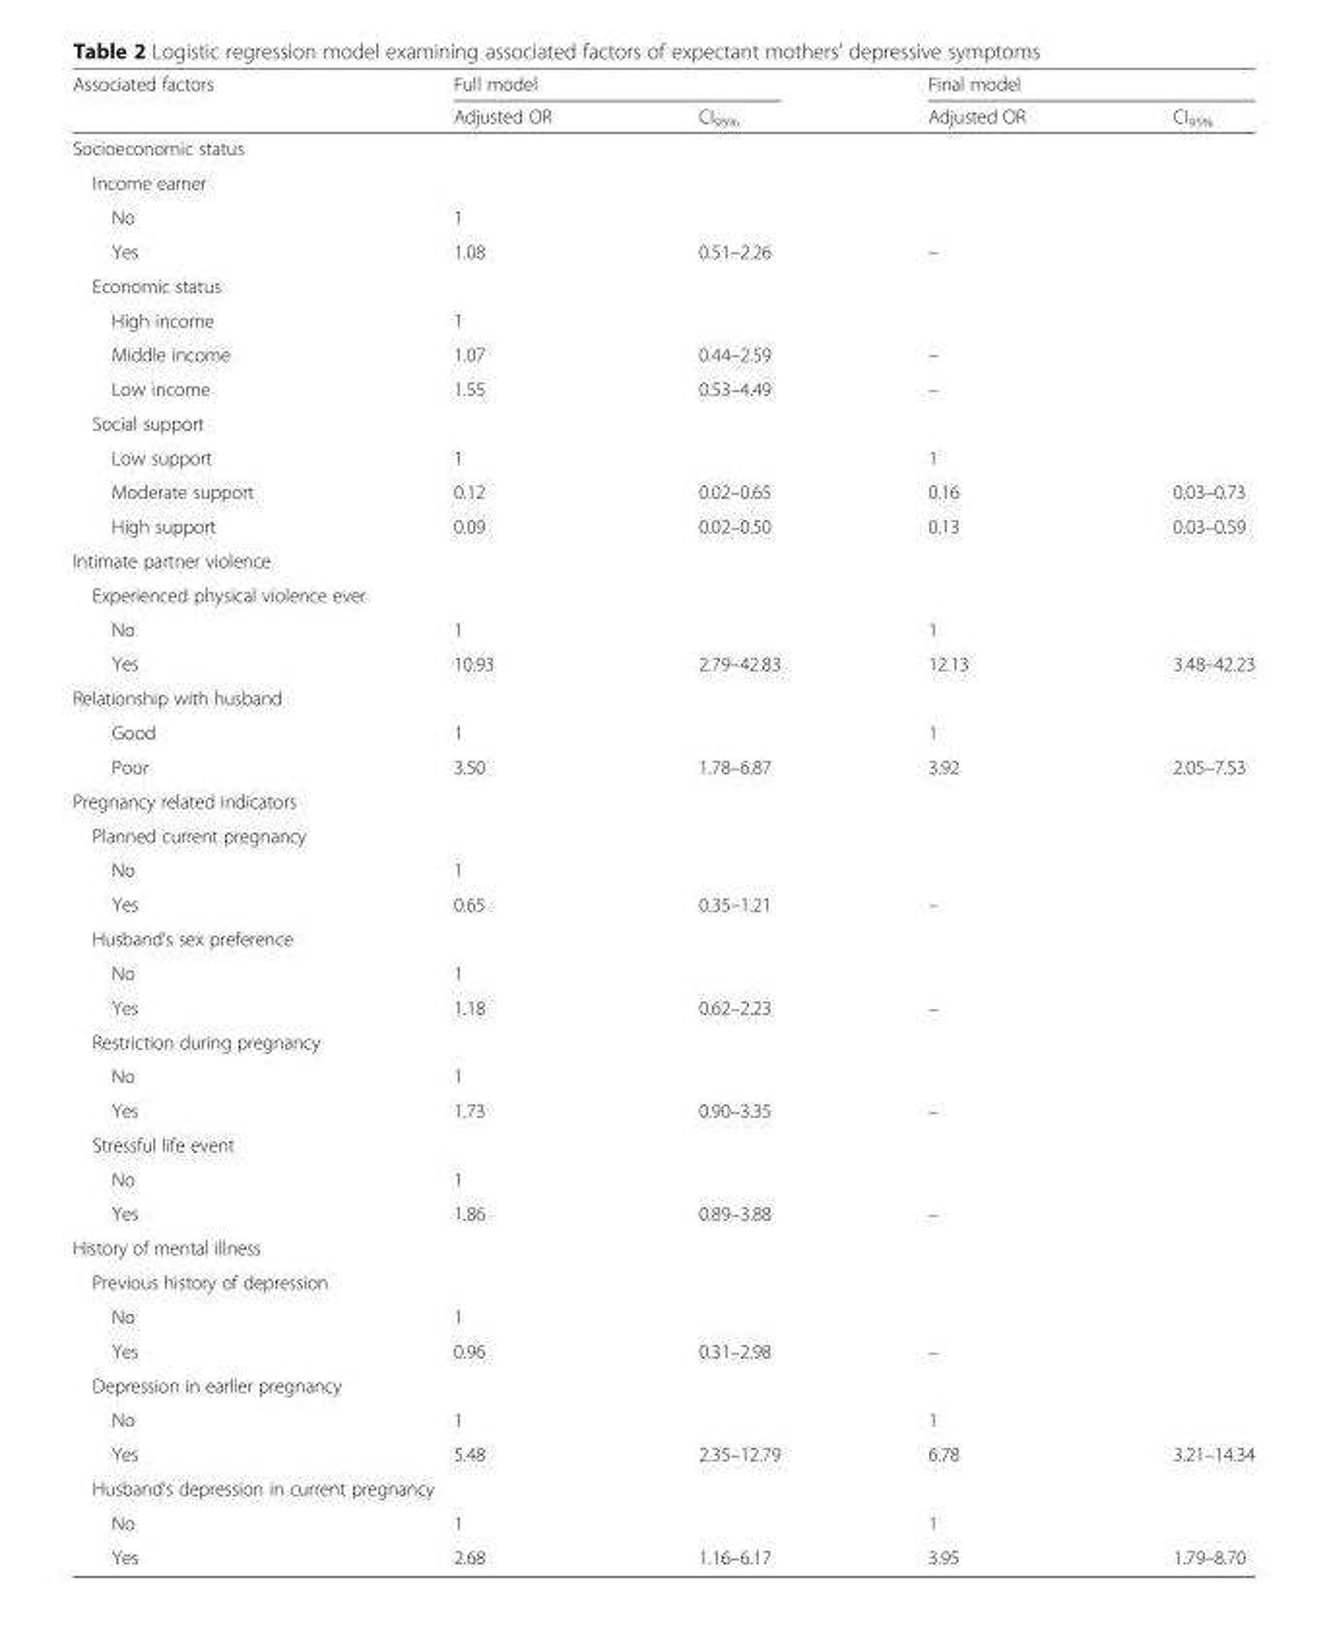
<table><thead><tr><td rowspan="2">Associated factors</td><td colspan="2">Full model</td><td colspan="2">Final model</td></tr><tr><td>Adjusted OR</td><td>CI<sub>95%</sub></td><td>Adjusted OR</td><td>CI<sub>95%</sub></td></tr></thead><tbody><tr><td colspan="5">Socioeconomic status</td></tr><tr><td colspan="5">Income earner</td></tr><tr><td>No</td><td>1</td><td></td><td></td><td></td></tr><tr><td>Yes</td><td>1.08</td><td>0.51–2.26</td><td>–</td><td></td></tr><tr><td colspan="5">Economic status</td></tr><tr><td>High income</td><td>1</td><td></td><td></td><td></td></tr><tr><td>Middle income</td><td>1.07</td><td>0.44–2.59</td><td>–</td><td></td></tr><tr><td>Low income</td><td>1.55</td><td>0.53–4.49</td><td>–</td><td></td></tr><tr><td colspan="5">Social support</td></tr><tr><td>Low support</td><td>1</td><td></td><td>1</td><td></td></tr><tr><td>Moderate support</td><td>0.12</td><td>0.02–0.65</td><td>0.16</td><td>0.03–0.73</td></tr><tr><td>High support</td><td>0.09</td><td>0.02–0.50</td><td>0.13</td><td>0.03–0.59</td></tr><tr><td colspan="5">Intimate partner violence</td></tr><tr><td colspan="5">Experienced physical violence ever</td></tr><tr><td>No</td><td>1</td><td></td><td>1</td><td></td></tr><tr><td>Yes</td><td>10.93</td><td>2.79–42.83</td><td>12.13</td><td>3.48–42.23</td></tr><tr><td colspan="5">Relationship with husband</td></tr><tr><td>Good</td><td>1</td><td></td><td>1</td><td></td></tr><tr><td>Poor</td><td>3.50</td><td>1.78–6.87</td><td>3.92</td><td>2.05–7.53</td></tr><tr><td colspan="5">Pregnancy related indicators</td></tr><tr><td colspan="5">Planned current pregnancy</td></tr><tr><td>No</td><td>1</td><td></td><td></td><td></td></tr><tr><td>Yes</td><td>0.65</td><td>0.35–1.21</td><td>–</td><td></td></tr><tr><td colspan="5">Husband’s sex preference</td></tr><tr><td>No</td><td>1</td><td></td><td></td><td></td></tr><tr><td>Yes</td><td>1.18</td><td>0.62–2.23</td><td>–</td><td></td></tr><tr><td colspan="5">Restriction during pregnancy</td></tr><tr><td>No</td><td>1</td><td></td><td></td><td></td></tr><tr><td>Yes</td><td>1.73</td><td>0.90–3.35</td><td>–</td><td></td></tr><tr><td colspan="5">Stressful life event</td></tr><tr><td>No</td><td>1</td><td></td><td></td><td></td></tr><tr><td>Yes</td><td>1.86</td><td>0.89–3.88</td><td>–</td><td></td></tr><tr><td colspan="5">History of mental illness</td></tr><tr><td colspan="5">Previous history of depression</td></tr><tr><td>No</td><td>1</td><td></td><td></td><td></td></tr><tr><td>Yes</td><td>0.96</td><td>0.31–2.98</td><td>–</td><td></td></tr><tr><td colspan="5">Depression in earlier pregnancy</td></tr><tr><td>No</td><td>1</td><td></td><td>1</td><td></td></tr><tr><td>Yes</td><td>5.48</td><td>2.35–12.79</td><td>6.78</td><td>3.21–14.34</td></tr><tr><td colspan="5">Husband’s depression in current pregnancy</td></tr><tr><td>No</td><td>1</td><td></td><td>1</td><td></td></tr><tr><td>Yes</td><td>2.68</td><td>1.16–6.17</td><td>3.95</td><td>1.79–8.70</td></tr></tbody></table>